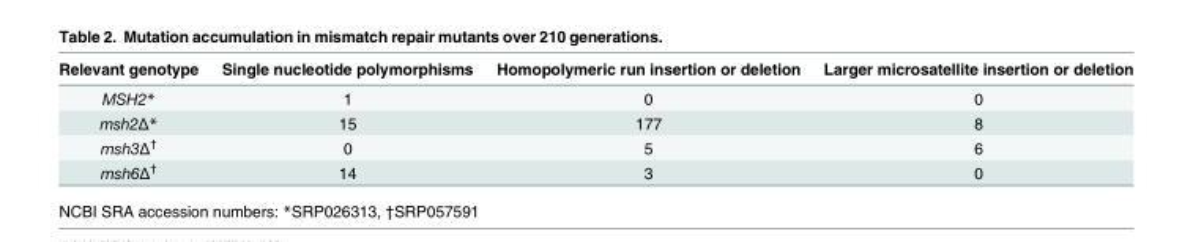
<table><thead><tr><td>Relevant genotype</td><td>Single nucleotide polymorphisms</td><td>Homopolymeric run insertion or deletion</td><td>Larger microsatellite insertion or deletion</td></tr></thead><tbody><tr><td>MSH2*</td><td>1</td><td>0</td><td>0</td></tr><tr><td>msh2Δ*</td><td>15</td><td>177</td><td>8</td></tr><tr><td>msh3Δ<sup>†</sup></td><td>0</td><td>5</td><td>6</td></tr><tr><td>msh6Δ<sup>†</sup></td><td>14</td><td>3</td><td>0</td></tr></tbody></table>